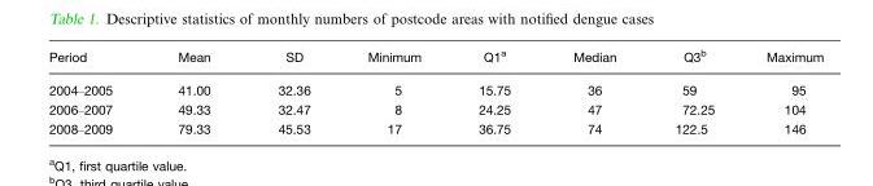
<table><thead><tr><td>Period</td><td>Mean</td><td>SD</td><td>Minimum</td><td>Q1<sup>a</sup></td><td>Median</td><td>Q3<sup>b</sup></td><td>Maximum</td></tr></thead><tbody><tr><td>2004–2005</td><td>41.00</td><td>32.36</td><td>5</td><td>15.75</td><td>36</td><td>59</td><td>95</td></tr><tr><td>2006–2007</td><td>49.33</td><td>32.47</td><td>8</td><td>24.25</td><td>47</td><td>72.25</td><td>104</td></tr><tr><td>2008–2009</td><td>79.33</td><td>45.53</td><td>17</td><td>36.75</td><td>74</td><td>122.5</td><td>146</td></tr></tbody></table>